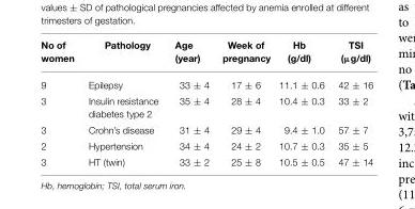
<table><thead><tr><td>No of women</td><td>Pathology</td><td>Age (year)</td><td>Week of pregnancy</td><td>Hb (g/dl)</td><td>TSI (µg/dl)</td></tr></thead><tbody><tr><td>9</td><td>Epilepsy</td><td>33 ± 4</td><td>17 ± 6</td><td>11.1 ± 0.6</td><td>42 ± 16</td></tr><tr><td>3</td><td>Insulin resistance diabetes type 2</td><td>35 ± 4</td><td>28 ± 4</td><td>10.4 ± 0.3</td><td>33 ± 2</td></tr><tr><td>3</td><td>Crohn’s disease</td><td>31 ± 4</td><td>29 ± 4</td><td>9.4 ± 1.0</td><td>57 ± 7</td></tr><tr><td>2</td><td>Hypertension</td><td>34 ± 4</td><td>24 ± 2</td><td>10.7 ± 0.3</td><td>35 ± 5</td></tr><tr><td>3</td><td>HT (twin)</td><td>33 ± 2</td><td>25 ± 8</td><td>10.5 ± 0.5</td><td>47 ± 14</td></tr></tbody></table>